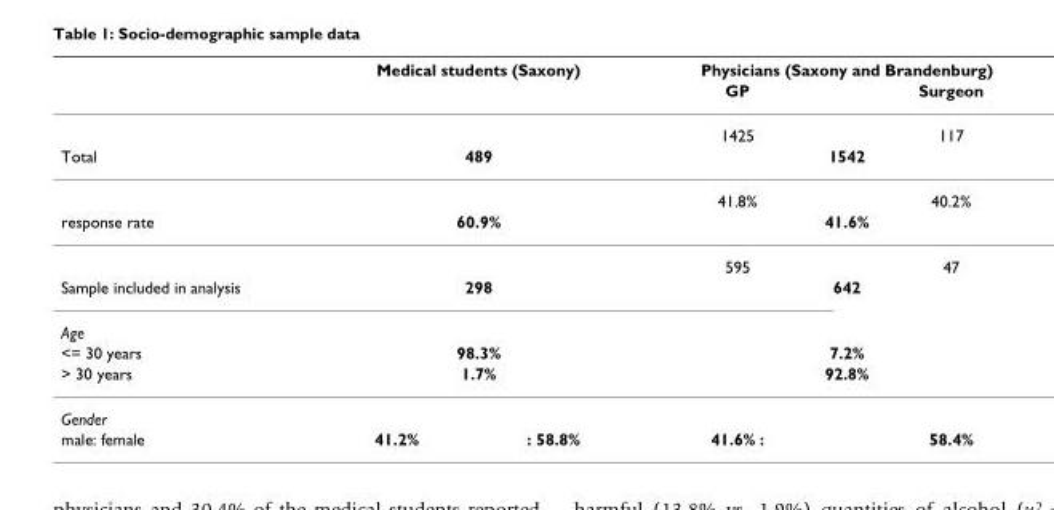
<table><thead><tr><td rowspan="2"></td><td colspan="2">Medical students (Saxony)</td><td colspan="2">Physicians (Saxony and Brandenburg)</td></tr><tr><td></td><td></td><td>GP</td><td>Surgeon</td></tr></thead><tbody><tr><td></td><td colspan="2"></td><td>1425</td><td>117</td></tr><tr><td rowspan="2">Total</td><td colspan="2">489</td><td colspan="2">1542</td></tr><tr><td colspan="2"></td><td>41.8%</td><td>40.2%</td></tr><tr><td rowspan="2">response rate</td><td colspan="2">60.9%</td><td colspan="2">41.6%</td></tr><tr><td colspan="2"></td><td>595</td><td>47</td></tr><tr><td>Sample included in analysis</td><td colspan="2">298</td><td colspan="2">642</td></tr><tr><td colspan="5">Age</td></tr><tr><td>&lt;= 30 years</td><td colspan="2">98.3%</td><td colspan="2">7.2%</td></tr><tr><td>&gt; 30 years</td><td colspan="2">1.7%</td><td colspan="2">92.8%</td></tr><tr><td colspan="5">Gender</td></tr><tr><td>male: female</td><td>41.2%</td><td>: 58.8%</td><td>41.6% :</td><td>58.4%</td></tr></tbody></table>